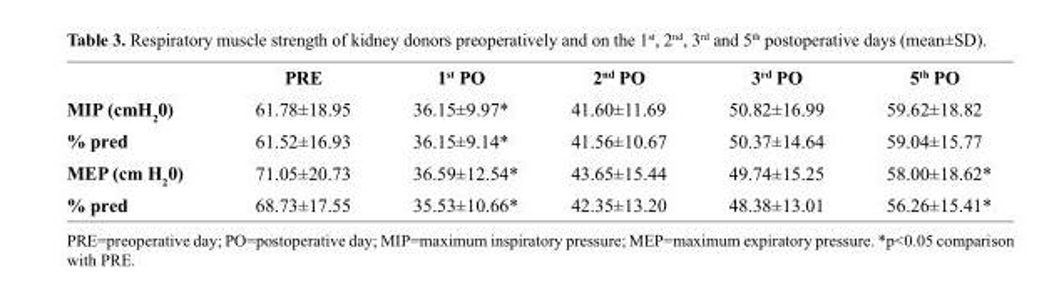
<table><thead><tr><td></td><td>PRE</td><td>1<sup>st</sup> PO</td><td>2<sup>nd</sup> PO</td><td>3<sup>rd</sup> PO</td><td>5<sup>th</sup> PO</td></tr></thead><tbody><tr><td>MIP (cmH<sub>2</sub>0)</td><td>61.78±18.95</td><td>36.15±9.97*</td><td>41.60±11.69</td><td>50.82±16.99</td><td>59.62±18.82</td></tr><tr><td>% pred</td><td>61.52±16.93</td><td>36.15±9.14*</td><td>41.56±10.67</td><td>50.37±14.64</td><td>59.04±15.77</td></tr><tr><td>MEP (cm H<sub>2</sub>0)</td><td>71.05±20.73</td><td>36.59±12.54*</td><td>43.65±15.44</td><td>49.74±15.25</td><td>58.00±18.62*</td></tr><tr><td>% pred</td><td>68.73±17.55</td><td>35.53±10.66*</td><td>42.35±13.20</td><td>48.38±13.01</td><td>56.26±15.41*</td></tr></tbody></table>